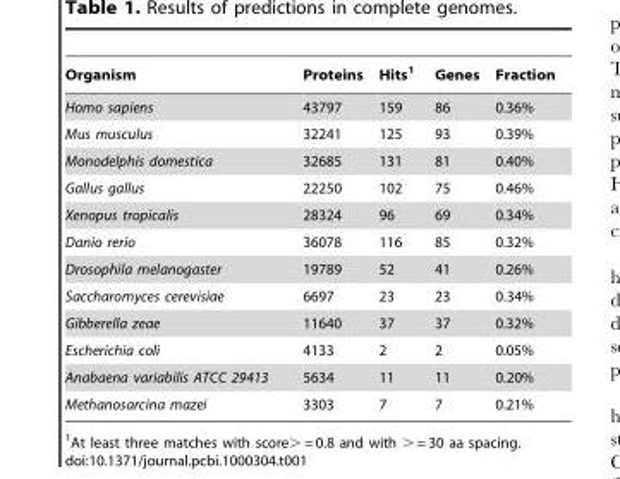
<table><thead><tr><td>Organism</td><td>Proteins</td><td>Hits<sup>1</sup></td><td>Genes</td><td>Fraction</td></tr></thead><tbody><tr><td>Homo sapiens</td><td>43797</td><td>159</td><td>86</td><td>0.36%</td></tr><tr><td>Mus musculus</td><td>32241</td><td>125</td><td>93</td><td>0.39%</td></tr><tr><td>Monodelphis domestica</td><td>32685</td><td>131</td><td>81</td><td>0.40%</td></tr><tr><td>Gallus gallus</td><td>22250</td><td>102</td><td>75</td><td>0.46%</td></tr><tr><td>Xenopus tropicalis</td><td>28324</td><td>96</td><td>69</td><td>0.34%</td></tr><tr><td>Danio rerio</td><td>36078</td><td>116</td><td>85</td><td>0.32%</td></tr><tr><td>Drosophila melanogaster</td><td>19789</td><td>52</td><td>41</td><td>0.26%</td></tr><tr><td>Saccharomyces cerevisiae</td><td>6697</td><td>23</td><td>23</td><td>0.34%</td></tr><tr><td>Gibberella zeae</td><td>11640</td><td>37</td><td>37</td><td>0.32%</td></tr><tr><td>Escherichia coli</td><td>4133</td><td>2</td><td>2</td><td>0.05%</td></tr><tr><td>Anabaena variabilis ATCC 29413</td><td>5634</td><td>11</td><td>11</td><td>0.20%</td></tr><tr><td>Methanosarcina mazei</td><td>3303</td><td>7</td><td>7</td><td>0.21%</td></tr></tbody></table>